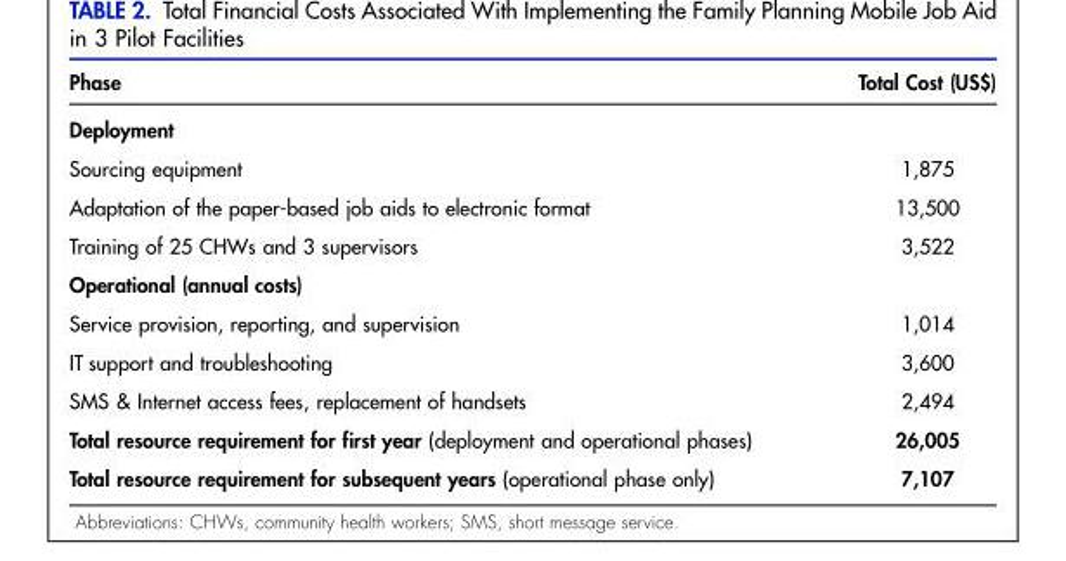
<table><thead><tr><td>Phase</td><td>Total Cost (US$)</td></tr></thead><tbody><tr><td colspan="2">Deployment</td></tr><tr><td>Sourcing equipment</td><td>1,875</td></tr><tr><td>Adaptation of the paper-based job aids to electronic format</td><td>13,500</td></tr><tr><td>Training of 25 CHWs and 3 supervisors</td><td>3,522</td></tr><tr><td colspan="2">Operational (annual costs)</td></tr><tr><td>Service provision, reporting, and supervision</td><td>1,014</td></tr><tr><td>IT support and troubleshooting</td><td>3,600</td></tr><tr><td>SMS &amp; Internet access fees, replacement of handsets</td><td>2,494</td></tr><tr><td>Total resource requirement for first year (deployment and operational phases)</td><td>26,005</td></tr><tr><td>Total resource requirement for subsequent years (operational phase only)</td><td>7,107</td></tr></tbody></table>